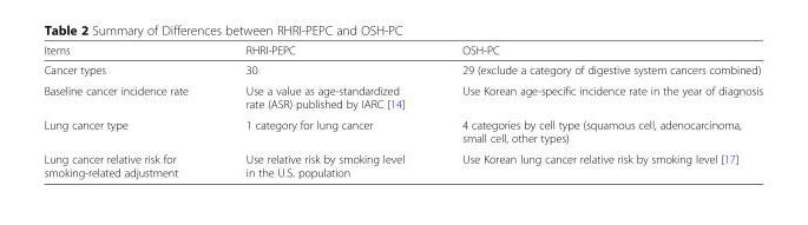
<table><thead><tr><td>Items</td><td>RHRI-PEPC</td><td>OSH-PC</td></tr></thead><tbody><tr><td>Cancer types</td><td>30</td><td>29 (exclude a category of digestive system cancers combined)</td></tr><tr><td>Baseline cancer incidence rate</td><td>Use a value as age-standardized rate (ASR) published by IARC [14]</td><td>Use Korean age-specific incidence rate in the year of diagnosis</td></tr><tr><td>Lung cancer type</td><td>1 category for lung cancer</td><td>4 categories by cell type (squamous cell, adenocarcinoma, small cell, other types)</td></tr><tr><td>Lung cancer relative risk for smoking-related adjustment</td><td>Use relative risk by smoking level in the U.S. population</td><td>Use Korean lung cancer relative risk by smoking level [17]</td></tr></tbody></table>